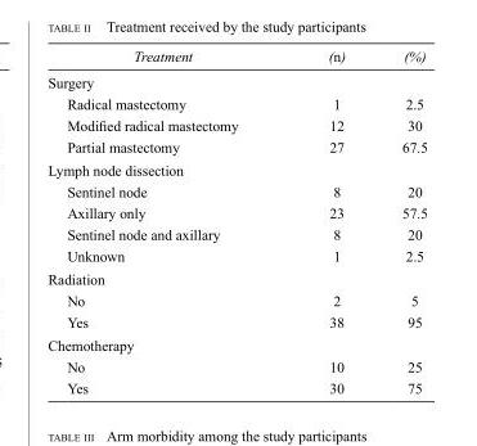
<table><thead><tr><td>Treatment</td><td>(n)</td><td>(%)</td></tr></thead><tbody><tr><td colspan="3">Surgery</td></tr><tr><td>Radical mastectomy</td><td>1</td><td>2.5</td></tr><tr><td>Modified radical mastectomy</td><td>12</td><td>30</td></tr><tr><td>Partial mastectomy</td><td>27</td><td>67.5</td></tr><tr><td colspan="3">Lymph node dissection</td></tr><tr><td>Sentinel node</td><td>8</td><td>20</td></tr><tr><td>Axillary only</td><td>23</td><td>57.5</td></tr><tr><td>Sentinel node and axillary</td><td>8</td><td>20</td></tr><tr><td>Unknown</td><td>1</td><td>2.5</td></tr><tr><td colspan="3">Radiation</td></tr><tr><td>No</td><td>2</td><td>5</td></tr><tr><td>Yes</td><td>38</td><td>95</td></tr><tr><td colspan="3">Chemotherapy</td></tr><tr><td>No</td><td>10</td><td>25</td></tr><tr><td>Yes</td><td>30</td><td>75</td></tr></tbody></table>